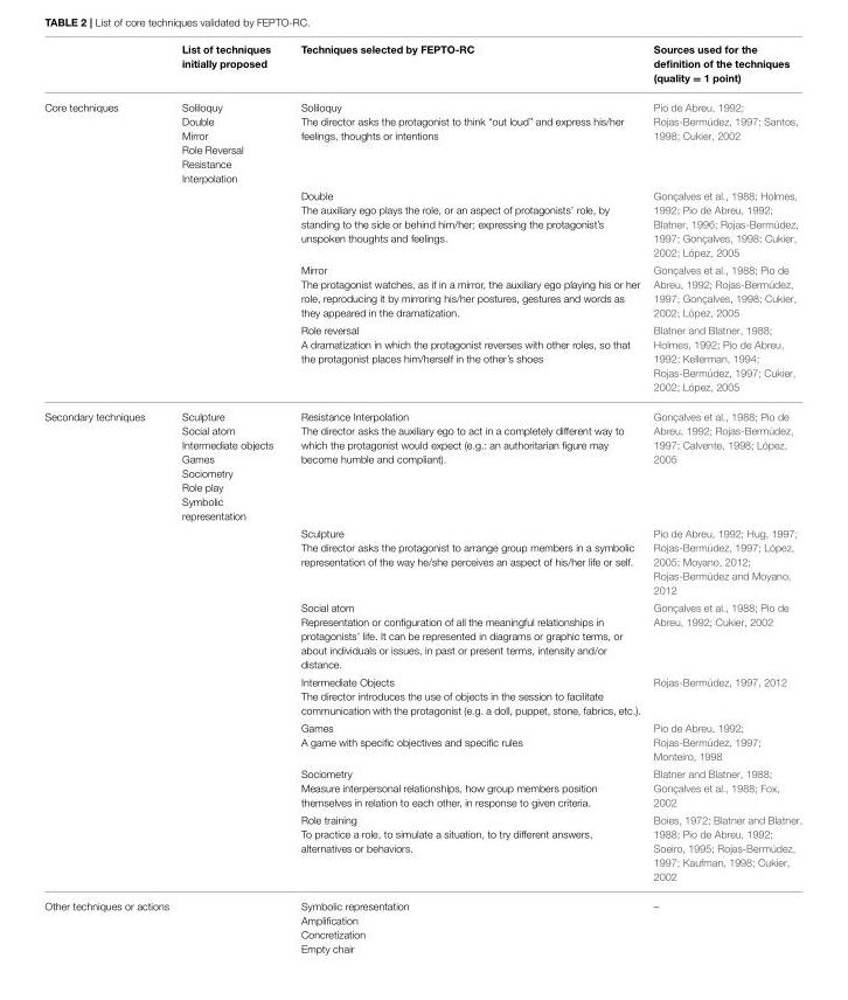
<table><thead><tr><td></td><td>List of techniques initially proposed</td><td>Techniques selected by FEPTO-RC</td><td>Sources used for the definition of the techniques (quality = 1 point)</td></tr></thead><tbody><tr><td rowspan="4">Core techniques</td><td>Soliloquy Double Mirror Role Reversal Resistance Interpolation</td><td>Soliloquy The director asks the protagonist to think “out loud” and express his/her feelings, thoughts or intentions</td><td>Pio de Abreu, 1992; Rojas-Bermúdez, 1997; Santos, 1998; Cukier, 2002</td></tr><tr><td></td><td>Double The auxiliary ego plays the role, or an aspect of protagonists’ role, by standing to the side or behind him/her; expressing the protagonist’s unspoken thoughts and feelings.</td><td>Gonçalves et al., 1988; Holmes, 1992; Pio de Abreu, 1992; Blatner, 1996; Rojas-Bermúdez, 1997; Gonçalves, 1998; Cukier, 2002; López, 2005</td></tr><tr><td></td><td>Mirror The protagonist watches, as if in a mirror, the auxiliary ego playing his or her role, reproducing it by mirroring his/her postures, gestures and words as they appeared in the dramatization.</td><td>Gonçalves et al., 1988; Pio de Abreu, 1992; Rojas-Bermúdez, 1997; Gonçalves, 1998; Cukier, 2002; López, 2005</td></tr><tr><td></td><td>Role reversal A dramatization in which the protagonist reverses with other roles, so that the protagonist places him/herself in the other’s shoes</td><td>Blatner and Blatner, 1988; Holmes, 1992; Pio de Abreu, 1992; Kellerman, 1994; Rojas-Bermúdez, 1997; Cukier, 2002; López, 2005</td></tr><tr><td rowspan="7">Secondary techniques</td><td>Sculpture Social atom Intermediate objects Games Sociometry Role play Symbolic representation</td><td>Resistance Interpolation The director asks the auxiliary ego to act in a completely different way to which the protagonist would expect (e.g.: an authoritarian figure may become humble and compliant).</td><td>Gonçalves et al., 1988; Pio de Abreu, 1992; Rojas-Bermúdez, 1997; Calvente, 1998; López, 2005</td></tr><tr><td></td><td>Sculpture The director asks the protagonist to arrange group members in a symbolic representation of the way he/she perceives an aspect of his/her life or self.</td><td>Pio de Abreu, 1992; Hug, 1997; Rojas-Bermúdez, 1997; López, 2005; Moyano, 2012; Rojas-Bermúdez and Moyano, 2012</td></tr><tr><td></td><td>Social atom Representation or configuration of all the meaningful relationships in protagonists’ life. It can be represented in diagrams or graphic terms, or about individuals or issues, in past or present terms, intensity and/or distance.</td><td>Gonçalves et al., 1988; Pio de Abreu, 1992; Cukier, 2002</td></tr><tr><td></td><td>Intermediate Objects The director introduces the use of objects in the session to facilitate communication with the protagonist (e.g. a doll, puppet, stone, fabrics, etc.).</td><td>Rojas-Bermúdez, 1997, 2012</td></tr><tr><td></td><td>Games A game with specific objectives and specific rules</td><td>Pio de Abreu, 1992; Rojas-Bermúdez, 1997; Monteiro, 1998</td></tr><tr><td></td><td>Sociometry Measure interpersonal relationships, how group members position themselves in relation to each other, in response to given criteria.</td><td>Blatner and Blatner, 1988; Gonçalves et al., 1988; Fox, 2002</td></tr><tr><td></td><td>Role training To practice a role, to simulate a situation, to try different answers, alternatives or behaviors.</td><td>Boies, 1972; Blatner and Blatner, 1988; Pio de Abreu, 1992; Soeiro, 1995; Rojas-Bermúdez, 1997; Kaufman, 1998; Cukier, 2002</td></tr><tr><td>Other techniques or actions</td><td></td><td>Symbolic representation Amplification Concretization Empty chair</td><td>–</td></tr></tbody></table>